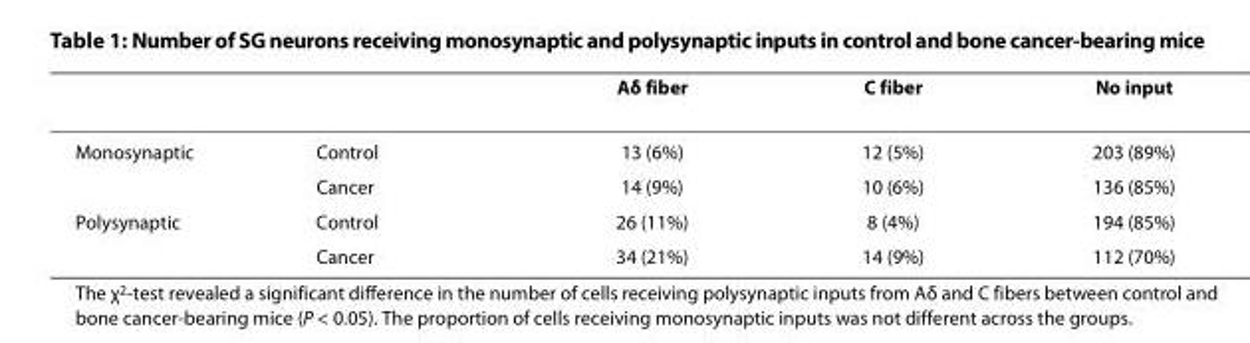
<table><thead><tr><td></td><td></td><td>Aδ fiber</td><td>C fiber</td><td>No input</td></tr></thead><tbody><tr><td rowspan="2">Monosynaptic</td><td>Control</td><td>13 (6%)</td><td>12 (5%)</td><td>203 (89%)</td></tr><tr><td>Cancer</td><td>14 (9%)</td><td>10 (6%)</td><td>136 (85%)</td></tr><tr><td rowspan="2">Polysynaptic</td><td>Control</td><td>26 (11%)</td><td>8 (4%)</td><td>194 (85%)</td></tr><tr><td>Cancer</td><td>34 (21%)</td><td>14 (9%)</td><td>112 (70%)</td></tr></tbody></table>